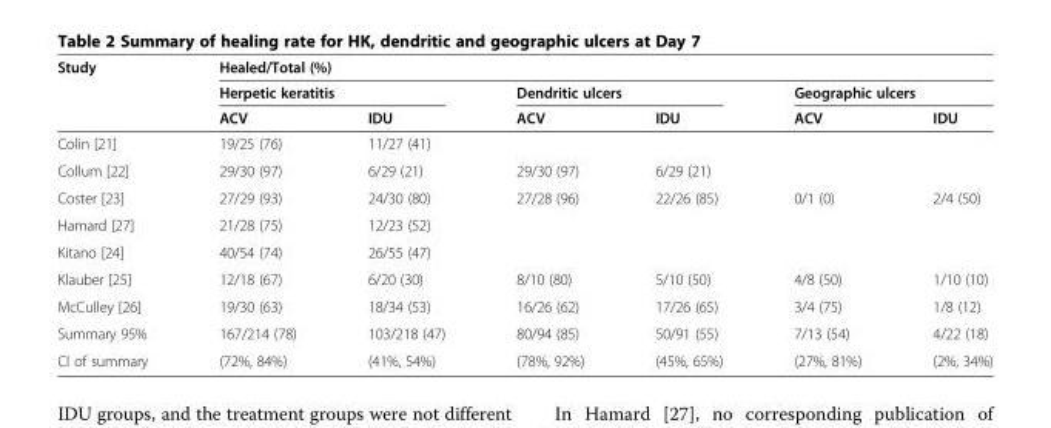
<table><thead><tr><td rowspan="3">Study</td><td colspan="6">Healed/Total (%)</td></tr><tr><td colspan="2">Herpetic keratitis</td><td colspan="2">Dendritic ulcers</td><td colspan="2">Geographic ulcers</td></tr><tr><td>ACV</td><td>IDU</td><td>ACV</td><td>IDU</td><td>ACV</td><td>IDU</td></tr></thead><tbody><tr><td>Colin [21]</td><td>19/25 (76)</td><td>11/27 (41)</td><td></td><td></td><td></td><td></td></tr><tr><td>Collum [22]</td><td>29/30 (97)</td><td>6/29 (21)</td><td>29/30 (97)</td><td>6/29 (21)</td><td></td><td></td></tr><tr><td>Coster [23]</td><td>27/29 (93)</td><td>24/30 (80)</td><td>27/28 (96)</td><td>22/26 (85)</td><td>0/1 (0)</td><td>2/4 (50)</td></tr><tr><td>Hamard [27]</td><td>21/28 (75)</td><td>12/23 (52)</td><td></td><td></td><td></td><td></td></tr><tr><td>Kitano [24]</td><td>40/54 (74)</td><td>26/55 (47)</td><td></td><td></td><td></td><td></td></tr><tr><td>Klauber [25]</td><td>12/18 (67)</td><td>6/20 (30)</td><td>8/10 (80)</td><td>5/10 (50)</td><td>4/8 (50)</td><td>1/10 (10)</td></tr><tr><td>McCulley [26]</td><td>19/30 (63)</td><td>18/34 (53)</td><td>16/26 (62)</td><td>17/26 (65)</td><td>3/4 (75)</td><td>1/8 (12)</td></tr><tr><td>Summary 95%</td><td>167/214 (78)</td><td>103/218 (47)</td><td>80/94 (85)</td><td>50/91 (55)</td><td>7/13 (54)</td><td>4/22 (18)</td></tr><tr><td>CI of summary</td><td>(72%, 84%)</td><td>(41%, 54%)</td><td>(78%, 92%)</td><td>(45%, 65%)</td><td>(27%, 81%)</td><td>(2%, 34%)</td></tr></tbody></table>